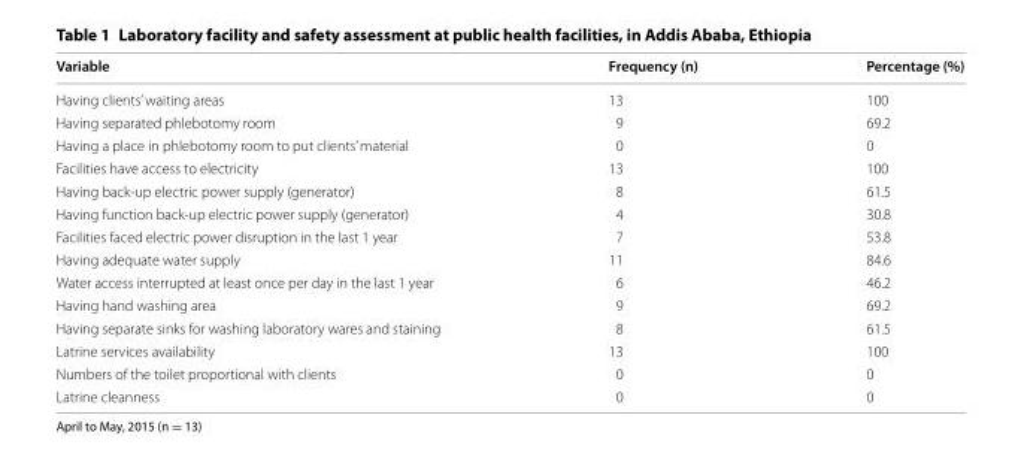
<table><thead><tr><td>Variable</td><td>Frequency (n)</td><td>Percentage (%)</td></tr></thead><tbody><tr><td>Having clients’ waiting areas</td><td>13</td><td>100</td></tr><tr><td>Having separated phlebotomy room</td><td>9</td><td>69.2</td></tr><tr><td>Having a place in phlebotomy room to put clients’ material</td><td>0</td><td>0</td></tr><tr><td>Facilities have access to electricity</td><td>13</td><td>100</td></tr><tr><td>Having back-up electric power supply (generator)</td><td>8</td><td>61.5</td></tr><tr><td>Having function back-up electric power supply (generator)</td><td>4</td><td>30.8</td></tr><tr><td>Facilities faced electric power disruption in the last 1 year</td><td>7</td><td>53.8</td></tr><tr><td>Having adequate water supply</td><td>11</td><td>84.6</td></tr><tr><td>Water access interrupted at least once per day in the last 1 year</td><td>6</td><td>46.2</td></tr><tr><td>Having hand washing area</td><td>9</td><td>69.2</td></tr><tr><td>Having separate sinks for washing laboratory wares and staining</td><td>8</td><td>61.5</td></tr><tr><td>Latrine services availability</td><td>13</td><td>100</td></tr><tr><td>Numbers of the toilet proportional with clients</td><td>0</td><td>0</td></tr><tr><td>Latrine cleanness</td><td>0</td><td>0</td></tr></tbody></table>